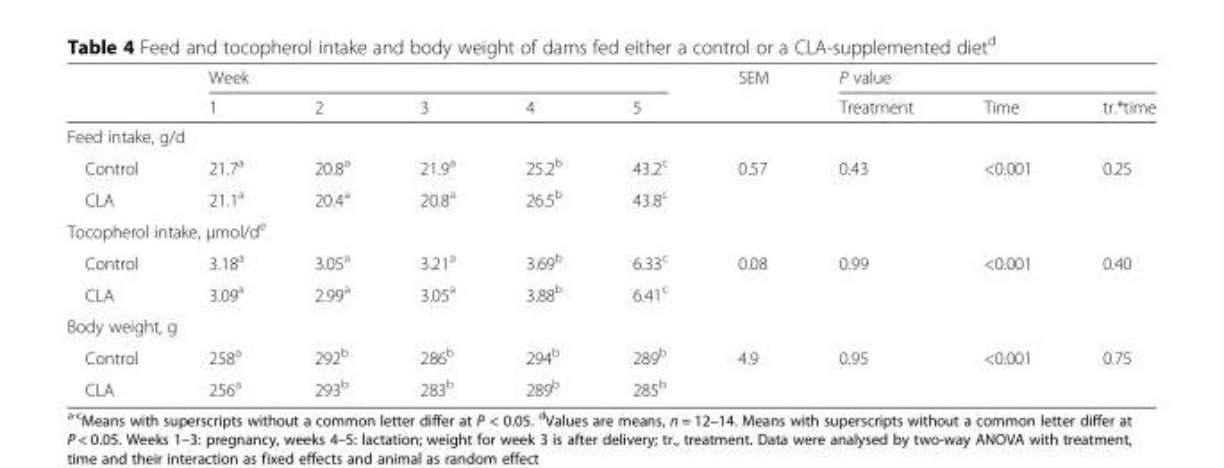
<table><thead><tr><td rowspan="2"></td><td colspan="5">Week</td><td rowspan="2">SEM</td><td colspan="3">P value</td></tr><tr><td>1</td><td>2</td><td>3</td><td>4</td><td>5</td><td>Treatment</td><td>Time</td><td>tr.*time</td></tr></thead><tbody><tr><td colspan="10">Feed intake, g/d</td></tr><tr><td>Control</td><td>21.7<sup>a</sup></td><td>20.8<sup>a</sup></td><td>21.9<sup>a</sup></td><td>25.2<sup>b</sup></td><td>43.2<sup>c</sup></td><td rowspan="2">0.57</td><td rowspan="2">0.43</td><td rowspan="2">&lt;0.001</td><td rowspan="2">0.25</td></tr><tr><td>CLA</td><td>21.1<sup>a</sup></td><td>20.4<sup>a</sup></td><td>20.8<sup>a</sup></td><td>26.5<sup>b</sup></td><td>43.8<sup>c</sup></td></tr><tr><td colspan="10">Tocopherol intake, μmol/d<sup>e</sup></td></tr><tr><td>Control</td><td>3.18<sup>a</sup></td><td>3.05<sup>a</sup></td><td>3.21<sup>a</sup></td><td>3.69<sup>b</sup></td><td>6.33<sup>c</sup></td><td rowspan="2">0.08</td><td rowspan="2">0.99</td><td rowspan="2">&lt;0.001</td><td rowspan="2">0.40</td></tr><tr><td>CLA</td><td>3.09<sup>a</sup></td><td>2.99<sup>a</sup></td><td>3.05<sup>a</sup></td><td>3.88<sup>b</sup></td><td>6.41<sup>c</sup></td></tr><tr><td colspan="10">Body weight, g</td></tr><tr><td>Control</td><td>258<sup>a</sup></td><td>292<sup>b</sup></td><td>286<sup>b</sup></td><td>294<sup>b</sup></td><td>289<sup>b</sup></td><td rowspan="2">4.9</td><td rowspan="2">0.95</td><td rowspan="2">&lt;0.001</td><td rowspan="2">0.75</td></tr><tr><td>CLA</td><td>256<sup>a</sup></td><td>293<sup>b</sup></td><td>283<sup>b</sup></td><td>289<sup>b</sup></td><td>285<sup>b</sup></td></tr></tbody></table>